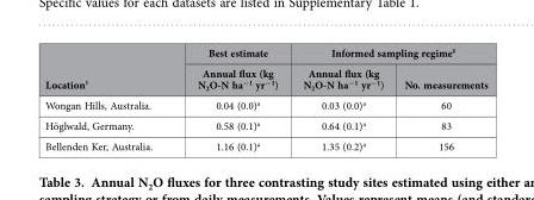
<table><thead><tr><td rowspan="2">Location†</td><td rowspan="2">Best estimate Annual flux (kg N<sub>2</sub>O-N ha<sup>−1</sup> yr<sup>−1</sup>)</td><td colspan="2">Informed sampling regime‡</td></tr><tr><td>Annual flux (kg N<sub>2</sub>O-N ha<sup>−1</sup> yr<sup>−1</sup>)</td><td>No. measurements</td></tr></thead><tbody><tr><td>Wongan Hills, Australia.</td><td>0.04 (0.0)<sup>a</sup></td><td>0.03 (0.0)<sup>a</sup></td><td>60</td></tr><tr><td>Höglwald, Germany.</td><td>0.58 (0.1)<sup>a</sup></td><td>0.64 (0.1)<sup>a</sup></td><td>83</td></tr><tr><td>Bellenden Ker, Australia.</td><td>1.16 (0.1)<sup>a</sup></td><td>1.35 (0.2)<sup>a</sup></td><td>156</td></tr></tbody></table>